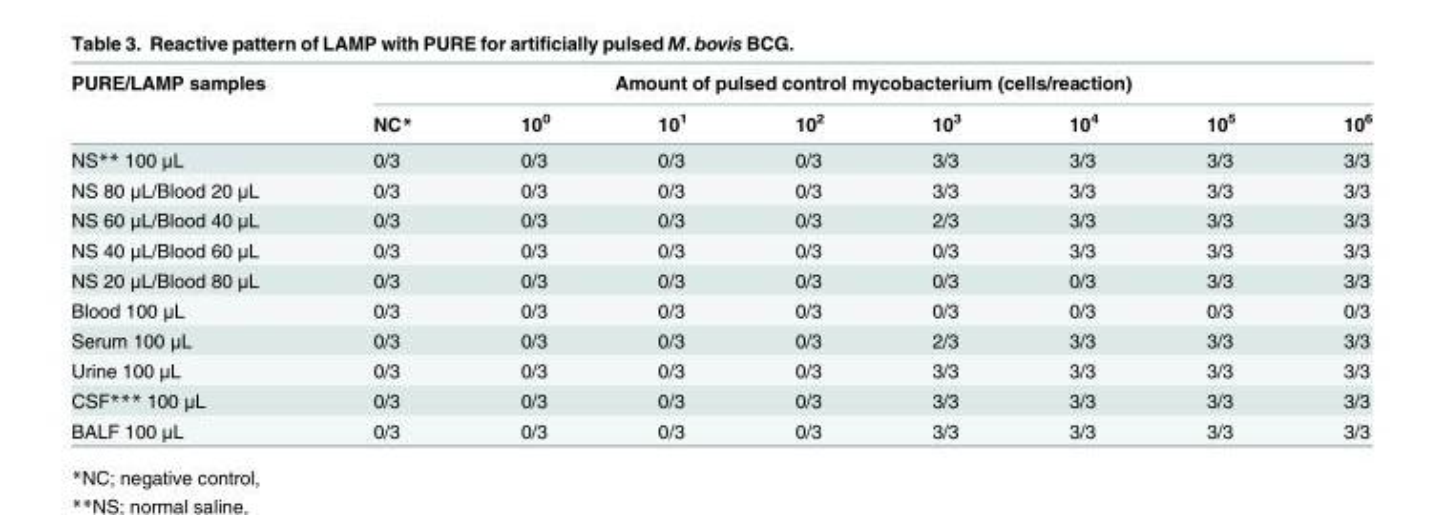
<table><thead><tr><td rowspan="2">PURE/LAMP samples</td><td colspan="8">Amount of pulsed control mycobacterium (cells/reaction)</td></tr><tr><td>NC*</td><td>10<sup>0</sup></td><td>10<sup>1</sup></td><td>10<sup>2</sup></td><td>10<sup>3</sup></td><td>10<sup>4</sup></td><td>10<sup>5</sup></td><td>10<sup>6</sup></td></tr></thead><tbody><tr><td>NS** 100 μL</td><td>0/3</td><td>0/3</td><td>0/3</td><td>0/3</td><td>3/3</td><td>3/3</td><td>3/3</td><td>3/3</td></tr><tr><td>NS 80 μL/Blood 20 μL</td><td>0/3</td><td>0/3</td><td>0/3</td><td>0/3</td><td>3/3</td><td>3/3</td><td>3/3</td><td>3/3</td></tr><tr><td>NS 60 μL/Blood 40 μL</td><td>0/3</td><td>0/3</td><td>0/3</td><td>0/3</td><td>2/3</td><td>3/3</td><td>3/3</td><td>3/3</td></tr><tr><td>NS 40 μL/Blood 60 μL</td><td>0/3</td><td>0/3</td><td>0/3</td><td>0/3</td><td>0/3</td><td>3/3</td><td>3/3</td><td>3/3</td></tr><tr><td>NS 20 μL/Blood 80 μL</td><td>0/3</td><td>0/3</td><td>0/3</td><td>0/3</td><td>0/3</td><td>0/3</td><td>3/3</td><td>3/3</td></tr><tr><td>Blood 100 μL</td><td>0/3</td><td>0/3</td><td>0/3</td><td>0/3</td><td>0/3</td><td>0/3</td><td>0/3</td><td>0/3</td></tr><tr><td>Serum 100 μL</td><td>0/3</td><td>0/3</td><td>0/3</td><td>0/3</td><td>2/3</td><td>3/3</td><td>3/3</td><td>3/3</td></tr><tr><td>Urine 100 μL</td><td>0/3</td><td>0/3</td><td>0/3</td><td>0/3</td><td>3/3</td><td>3/3</td><td>3/3</td><td>3/3</td></tr><tr><td>CSF*** 100 μL</td><td>0/3</td><td>0/3</td><td>0/3</td><td>0/3</td><td>3/3</td><td>3/3</td><td>3/3</td><td>3/3</td></tr><tr><td>BALF 100 μL</td><td>0/3</td><td>0/3</td><td>0/3</td><td>0/3</td><td>3/3</td><td>3/3</td><td>3/3</td><td>3/3</td></tr></tbody></table>